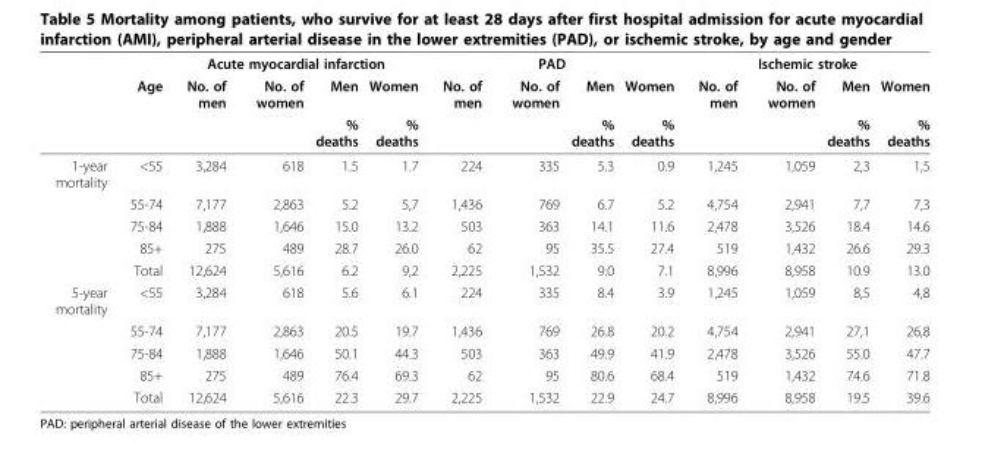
<table><thead><tr><td rowspan="3"></td><td rowspan="3">Age</td><td colspan="4">Acute myocardial infarction</td><td colspan="4">PAD</td><td colspan="4">Ischemic stroke</td></tr><tr><td rowspan="2">No. of men</td><td rowspan="2">No. of women</td><td rowspan="2">Men % deaths</td><td rowspan="2">Women % deaths</td><td rowspan="2">No. of men</td><td rowspan="2">No. of women</td><td rowspan="2">Men % deaths</td><td rowspan="2">Women % deaths</td><td rowspan="2">No. of men</td><td rowspan="2">No. of women</td><td rowspan="2">Men % deaths</td><td rowspan="2">Women % deaths</td></tr><tr></tr></thead><tbody><tr><td rowspan="5">1-year mortality</td><td>&lt;55</td><td>3,284</td><td>618</td><td>1.5</td><td>1.7</td><td>224</td><td>335</td><td>5.3</td><td>0.9</td><td>1,245</td><td>1,059</td><td>2,3</td><td>1,5</td></tr><tr><td>55-74</td><td>7,177</td><td>2,863</td><td>5.2</td><td>5,7</td><td>1,436</td><td>769</td><td>6.7</td><td>5.2</td><td>4,754</td><td>2,941</td><td>7,7</td><td>7,3</td></tr><tr><td>75-84</td><td>1,888</td><td>1,646</td><td>15.0</td><td>13.2</td><td>503</td><td>363</td><td>14.1</td><td>11.6</td><td>2,478</td><td>3,526</td><td>18.4</td><td>14.6</td></tr><tr><td>85+</td><td>275</td><td>489</td><td>28.7</td><td>26.0</td><td>62</td><td>95</td><td>35.5</td><td>27.4</td><td>519</td><td>1,432</td><td>26.6</td><td>29.3</td></tr><tr><td>Total</td><td>12,624</td><td>5,616</td><td>6.2</td><td>9,2</td><td>2,225</td><td>1,532</td><td>9.0</td><td>7.1</td><td>8,996</td><td>8,958</td><td>10.9</td><td>13.0</td></tr><tr><td rowspan="5">5-year mortality</td><td>&lt;55</td><td>3,284</td><td>618</td><td>5.6</td><td>6.1</td><td>224</td><td>335</td><td>8.4</td><td>3.9</td><td>1,245</td><td>1,059</td><td>8,5</td><td>4,8</td></tr><tr><td>55-74</td><td>7,177</td><td>2,863</td><td>20.5</td><td>19.7</td><td>1,436</td><td>769</td><td>26.8</td><td>20.2</td><td>4,754</td><td>2,941</td><td>27,1</td><td>26,8</td></tr><tr><td>75-84</td><td>1,888</td><td>1,646</td><td>50.1</td><td>44.3</td><td>503</td><td>363</td><td>49.9</td><td>41.9</td><td>2,478</td><td>3,526</td><td>55.0</td><td>47.7</td></tr><tr><td>85+</td><td>275</td><td>489</td><td>76.4</td><td>69.3</td><td>62</td><td>95</td><td>80.6</td><td>68.4</td><td>519</td><td>1,432</td><td>74.6</td><td>71.8</td></tr><tr><td>Total</td><td>12,624</td><td>5,616</td><td>22.3</td><td>29.7</td><td>2,225</td><td>1,532</td><td>22.9</td><td>24.7</td><td>8,996</td><td>8,958</td><td>19.5</td><td>39.6</td></tr></tbody></table>